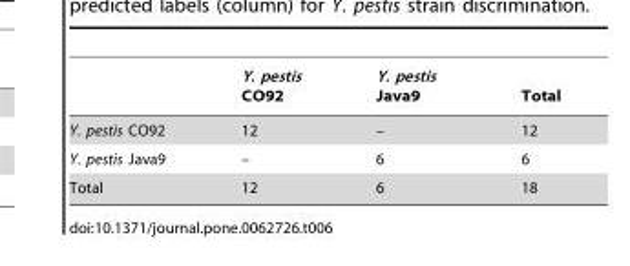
<table><thead><tr><td></td><td>Y. pestis CO92</td><td>Y. pestis Java9</td><td>Total</td></tr></thead><tbody><tr><td>Y. pestis CO92</td><td>12</td><td>–</td><td>12</td></tr><tr><td>Y. pestis Java9</td><td>–</td><td>6</td><td>6</td></tr><tr><td>Total</td><td>12</td><td>6</td><td>18</td></tr></tbody></table>